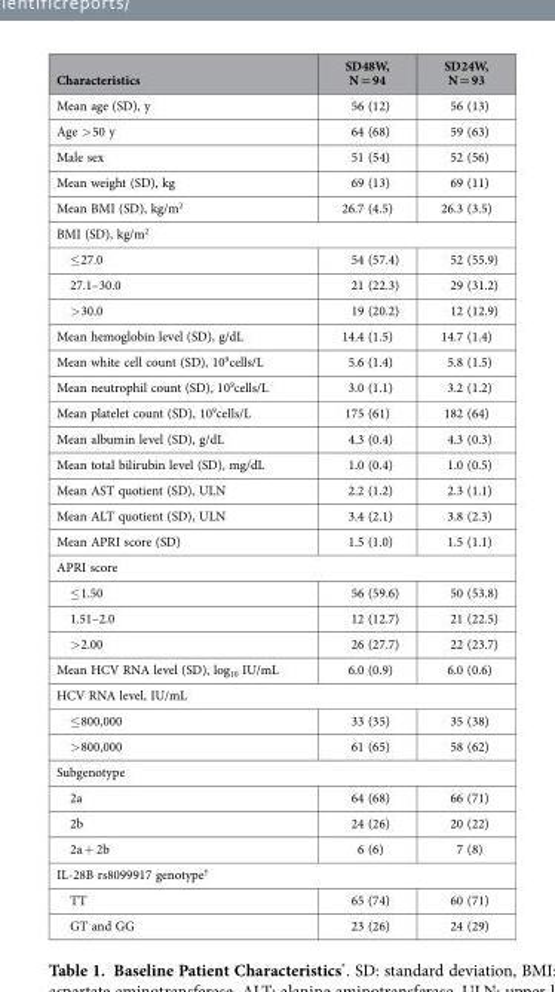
<table><thead><tr><td>Characteristics</td><td>SD48W, N = 94</td><td>SD24W, N = 93</td></tr></thead><tbody><tr><td>Mean age (SD), y</td><td>56 (12)</td><td>56 (13)</td></tr><tr><td>Age &gt; 50 y</td><td>64 (68)</td><td>59 (63)</td></tr><tr><td>Male sex</td><td>51 (54)</td><td>52 (56)</td></tr><tr><td>Mean weight (SD), kg</td><td>69 (13)</td><td>69 (11)</td></tr><tr><td>Mean BMI (SD), kg/m<sup>2</sup></td><td>26.7 (4.5)</td><td>26.3 (3.5)</td></tr><tr><td colspan="3">BMI (SD), kg/m<sup>2</sup></td></tr><tr><td>≤ 27.0</td><td>54 (57.4)</td><td>52 (55.9)</td></tr><tr><td>27.1–30.0</td><td>21 (22.3)</td><td>29 (31.2)</td></tr><tr><td>&gt; 30.0</td><td>19 (20.2)</td><td>12 (12.9)</td></tr><tr><td>Mean hemoglobin level (SD), g/dL</td><td>14.4 (1.5)</td><td>14.7 (1.4)</td></tr><tr><td>Mean white cell count (SD), 10<sup>9</sup>cells/L</td><td>5.6 (1.4)</td><td>5.8 (1.5)</td></tr><tr><td>Mean neutrophil count (SD), 10<sup>9</sup>cells/L</td><td>3.0 (1.1)</td><td>3.2 (1.2)</td></tr><tr><td>Mean platelet count (SD), 10<sup>9</sup>cells/L</td><td>175 (61)</td><td>182 (64)</td></tr><tr><td>Mean albumin level (SD), g/dL</td><td>4.3 (0.4)</td><td>4.3 (0.3)</td></tr><tr><td>Mean total bilirubin level (SD), mg/dL</td><td>1.0 (0.4)</td><td>1.0 (0.5)</td></tr><tr><td>Mean AST quotient (SD), ULN</td><td>2.2 (1.2)</td><td>2.3 (1.1)</td></tr><tr><td>Mean ALT quotient (SD), ULN</td><td>3.4 (2.1)</td><td>3.8 (2.3)</td></tr><tr><td>Mean APRI score (SD)</td><td>1.5 (1.0)</td><td>1.5 (1.1)</td></tr><tr><td colspan="3">APRI score</td></tr><tr><td>≤ 1.50</td><td>56 (59.6)</td><td>50 (53.8)</td></tr><tr><td>1.51–2.0</td><td>12 (12.7)</td><td>21 (22.5)</td></tr><tr><td>&gt; 2.00</td><td>26 (27.7)</td><td>22 (23.7)</td></tr><tr><td>Mean HCV RNA level (SD), log<sub>10</sub> IU/mL</td><td>6.0 (0.9)</td><td>6.0 (0.6)</td></tr><tr><td colspan="3">HCV RNA level, IU/mL</td></tr><tr><td>≤ 800,000</td><td>33 (35)</td><td>35 (38)</td></tr><tr><td>&gt; 800,000</td><td>61 (65)</td><td>58 (62)</td></tr><tr><td colspan="3">Subgenotype</td></tr><tr><td>2a</td><td>64 (68)</td><td>66 (71)</td></tr><tr><td>2b</td><td>24 (26)</td><td>20 (22)</td></tr><tr><td>2a + 2b</td><td>6 (6)</td><td>7 (8)</td></tr><tr><td colspan="3">IL-28B rs8099917 genotype†</td></tr><tr><td>TT</td><td>65 (74)</td><td>60 (71)</td></tr><tr><td>GT and GG</td><td>23 (26)</td><td>24 (29)</td></tr></tbody></table>